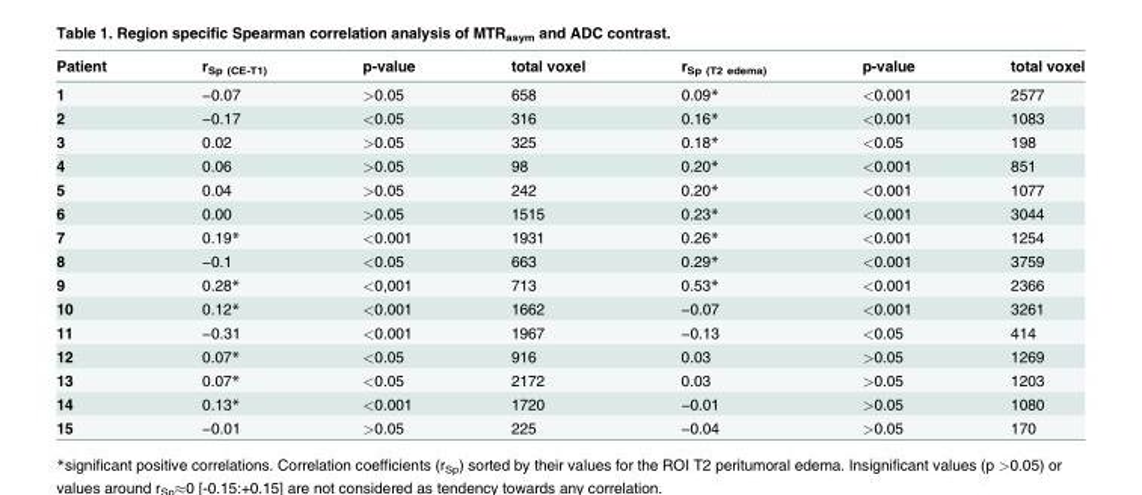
<table><thead><tr><td>Patient</td><td>r<sub>Sp (CE-T1)</sub></td><td>p-value</td><td>total voxel</td><td>r<sub>Sp (T2 edema)</sub></td><td>p-value</td><td>total voxel</td></tr></thead><tbody><tr><td>1</td><td>−0.07</td><td>&gt;0.05</td><td>658</td><td>0.09*</td><td>&lt;0.001</td><td>2577</td></tr><tr><td>2</td><td>−0.17</td><td>&lt;0.05</td><td>316</td><td>0.16*</td><td>&lt;0.001</td><td>1083</td></tr><tr><td>3</td><td>0.02</td><td>&gt;0.05</td><td>325</td><td>0.18*</td><td>&lt;0.05</td><td>198</td></tr><tr><td>4</td><td>0.06</td><td>&gt;0.05</td><td>98</td><td>0.20*</td><td>&lt;0.001</td><td>851</td></tr><tr><td>5</td><td>0.04</td><td>&gt;0.05</td><td>242</td><td>0.20*</td><td>&lt;0.001</td><td>1077</td></tr><tr><td>6</td><td>0.00</td><td>&gt;0.05</td><td>1515</td><td>0.23*</td><td>&lt;0.001</td><td>3044</td></tr><tr><td>7</td><td>0.19*</td><td>&lt;0.001</td><td>1931</td><td>0.26*</td><td>&lt;0.001</td><td>1254</td></tr><tr><td>8</td><td>−0.1</td><td>&lt;0.05</td><td>663</td><td>0.29*</td><td>&lt;0.001</td><td>3759</td></tr><tr><td>9</td><td>0.28*</td><td>&lt;0,001</td><td>713</td><td>0.53*</td><td>&lt;0.001</td><td>2366</td></tr><tr><td>10</td><td>0.12*</td><td>&lt;0.001</td><td>1662</td><td>−0.07</td><td>&lt;0.001</td><td>3261</td></tr><tr><td>11</td><td>−0.31</td><td>&lt;0.001</td><td>1967</td><td>−0.13</td><td>&lt;0.05</td><td>414</td></tr><tr><td>12</td><td>0.07*</td><td>&lt;0.05</td><td>916</td><td>0.03</td><td>&gt;0.05</td><td>1269</td></tr><tr><td>13</td><td>0.07*</td><td>&lt;0.05</td><td>2172</td><td>0.03</td><td>&gt;0.05</td><td>1203</td></tr><tr><td>14</td><td>0.13*</td><td>&lt;0.001</td><td>1720</td><td>−0.01</td><td>&gt;0.05</td><td>1080</td></tr><tr><td>15</td><td>−0.01</td><td>&gt;0.05</td><td>225</td><td>−0.04</td><td>&gt;0.05</td><td>170</td></tr></tbody></table>